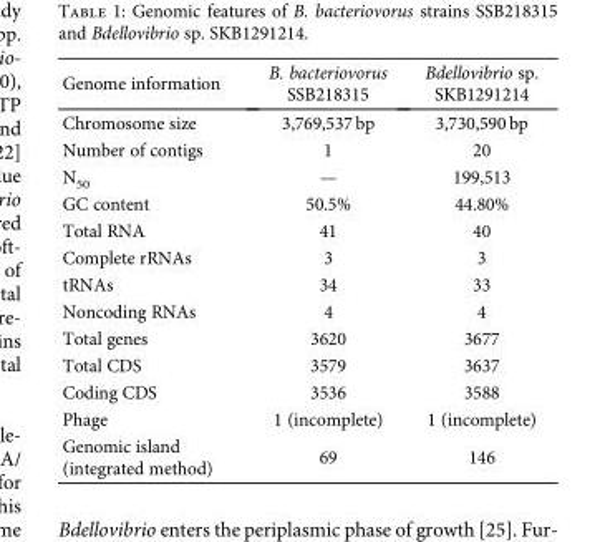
<table><thead><tr><td>Genome information</td><td>B. bacteriovorus SSB218315</td><td>Bdellovibrio sp. SKB1291214</td></tr></thead><tbody><tr><td>Chromosome size</td><td>3,769,537 bp</td><td>3,730,590 bp</td></tr><tr><td>Number of contigs</td><td>1</td><td>20</td></tr><tr><td>N<sub>50</sub></td><td>—</td><td>199,513</td></tr><tr><td>GC content</td><td>50.5%</td><td>44.80%</td></tr><tr><td>Total RNA</td><td>41</td><td>40</td></tr><tr><td>Complete rRNAs</td><td>3</td><td>3</td></tr><tr><td>tRNAs</td><td>34</td><td>33</td></tr><tr><td>Noncoding RNAs</td><td>4</td><td>4</td></tr><tr><td>Total genes</td><td>3620</td><td>3677</td></tr><tr><td>Total CDS</td><td>3579</td><td>3637</td></tr><tr><td>Coding CDS</td><td>3536</td><td>3588</td></tr><tr><td>Phage</td><td>1 (incomplete)</td><td>1 (incomplete)</td></tr><tr><td>Genomic island (integrated method)</td><td>69</td><td>146</td></tr></tbody></table>